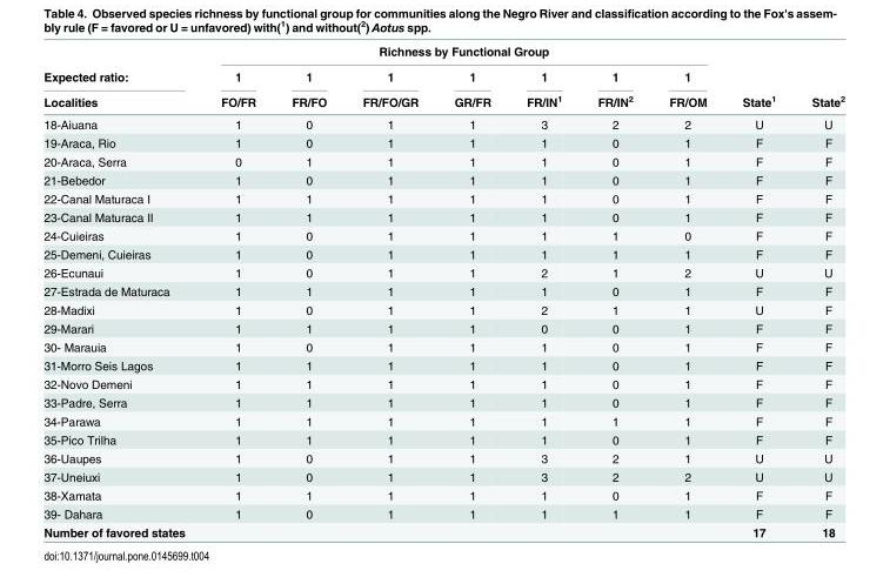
<table><thead><tr><td rowspan="3">Expected ratio: Localities</td><td colspan="7">Richness by Functional Group</td><td rowspan="3">State<sup>1</sup></td><td rowspan="3">State<sup>2</sup></td></tr><tr><td rowspan="2">1 FO/FR</td><td rowspan="2">1 FR/FO</td><td rowspan="2">1 FR/FO/GR</td><td rowspan="2">1 GR/FR</td><td rowspan="2">1 FR/IN1</td><td rowspan="2">1 FR/IN2</td><td rowspan="2">1 FR/OM</td></tr><tr></tr></thead><tbody><tr><td>18-Aiuana</td><td>1</td><td>0</td><td>1</td><td>1</td><td>3</td><td>2</td><td>2</td><td>U</td><td>U</td></tr><tr><td>19-Araca, Rio</td><td>1</td><td>0</td><td>1</td><td>1</td><td>1</td><td>0</td><td>1</td><td>F</td><td>F</td></tr><tr><td>20-Araca, Serra</td><td>0</td><td>1</td><td>1</td><td>1</td><td>1</td><td>0</td><td>1</td><td>F</td><td>F</td></tr><tr><td>21-Bebedor</td><td>1</td><td>0</td><td>1</td><td>1</td><td>1</td><td>0</td><td>1</td><td>F</td><td>F</td></tr><tr><td>22-Canal Maturaca I</td><td>1</td><td>1</td><td>1</td><td>1</td><td>1</td><td>0</td><td>1</td><td>F</td><td>F</td></tr><tr><td>23-Canal Maturaca II</td><td>1</td><td>1</td><td>1</td><td>1</td><td>1</td><td>0</td><td>1</td><td>F</td><td>F</td></tr><tr><td>24-Cuieiras</td><td>1</td><td>0</td><td>1</td><td>1</td><td>1</td><td>1</td><td>0</td><td>F</td><td>F</td></tr><tr><td>25-Demeni, Cuieiras</td><td>1</td><td>0</td><td>1</td><td>1</td><td>1</td><td>1</td><td>1</td><td>F</td><td>F</td></tr><tr><td>26-Ecunaui</td><td>1</td><td>0</td><td>1</td><td>1</td><td>2</td><td>1</td><td>2</td><td>U</td><td>U</td></tr><tr><td>27-Estrada de Maturaca</td><td>1</td><td>1</td><td>1</td><td>1</td><td>1</td><td>0</td><td>1</td><td>F</td><td>F</td></tr><tr><td>28-Madixi</td><td>1</td><td>0</td><td>1</td><td>1</td><td>2</td><td>1</td><td>1</td><td>U</td><td>F</td></tr><tr><td>29-Marari</td><td>1</td><td>1</td><td>1</td><td>1</td><td>0</td><td>0</td><td>1</td><td>F</td><td>F</td></tr><tr><td>30- Marauia</td><td>1</td><td>0</td><td>1</td><td>1</td><td>1</td><td>0</td><td>1</td><td>F</td><td>F</td></tr><tr><td>31-Morro Seis Lagos</td><td>1</td><td>1</td><td>1</td><td>1</td><td>1</td><td>0</td><td>1</td><td>F</td><td>F</td></tr><tr><td>32-Novo Demeni</td><td>1</td><td>1</td><td>1</td><td>1</td><td>1</td><td>0</td><td>1</td><td>F</td><td>F</td></tr><tr><td>33-Padre, Serra</td><td>1</td><td>1</td><td>1</td><td>1</td><td>1</td><td>0</td><td>1</td><td>F</td><td>F</td></tr><tr><td>34-Parawa</td><td>1</td><td>1</td><td>1</td><td>1</td><td>1</td><td>1</td><td>1</td><td>F</td><td>F</td></tr><tr><td>35-Pico Trilha</td><td>1</td><td>1</td><td>1</td><td>1</td><td>1</td><td>0</td><td>1</td><td>F</td><td>F</td></tr><tr><td>36-Uaupes</td><td>1</td><td>0</td><td>1</td><td>1</td><td>3</td><td>2</td><td>1</td><td>U</td><td>U</td></tr><tr><td>37-Uneiuxi</td><td>1</td><td>0</td><td>1</td><td>1</td><td>3</td><td>2</td><td>2</td><td>U</td><td>U</td></tr><tr><td>38-Xamata</td><td>1</td><td>1</td><td>1</td><td>1</td><td>1</td><td>0</td><td>1</td><td>F</td><td>F</td></tr><tr><td>39- Dahara</td><td>1</td><td>0</td><td>1</td><td>1</td><td>1</td><td>1</td><td>1</td><td>F</td><td>F</td></tr><tr><td>Number of favored states</td><td></td><td></td><td></td><td></td><td></td><td></td><td></td><td>17</td><td>18</td></tr></tbody></table>